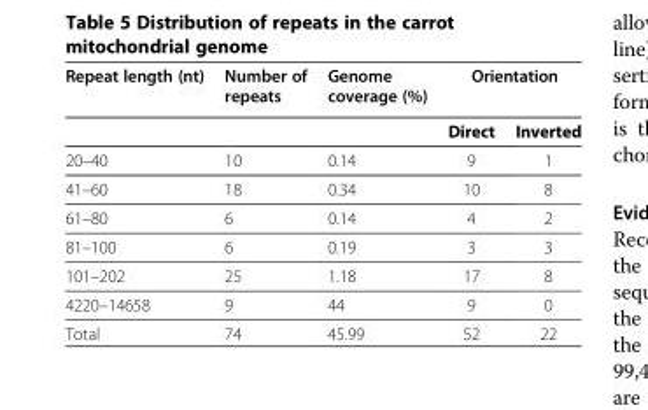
<table><thead><tr><td rowspan="2">Repeat length (nt)</td><td rowspan="2">Number of repeats</td><td rowspan="2">Genome coverage (%)</td><td colspan="2">Orientation</td></tr><tr><td>Direct</td><td>Inverted</td></tr></thead><tbody><tr><td>20–40</td><td>10</td><td>0.14</td><td>9</td><td>1</td></tr><tr><td>41–60</td><td>18</td><td>0.34</td><td>10</td><td>8</td></tr><tr><td>61–80</td><td>6</td><td>0.14</td><td>4</td><td>2</td></tr><tr><td>81–100</td><td>6</td><td>0.19</td><td>3</td><td>3</td></tr><tr><td>101–202</td><td>25</td><td>1.18</td><td>17</td><td>8</td></tr><tr><td>4220–14658</td><td>9</td><td>44</td><td>9</td><td>0</td></tr><tr><td>Total</td><td>74</td><td>45.99</td><td>52</td><td>22</td></tr></tbody></table>